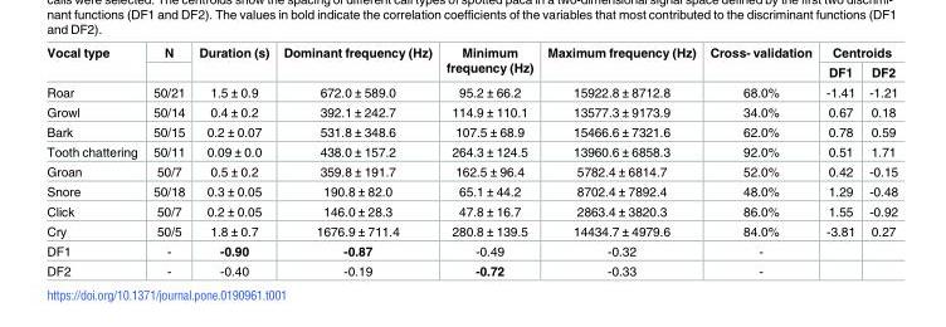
<table><thead><tr><td rowspan="2">Vocal type</td><td rowspan="2">N</td><td rowspan="2">Duration (s)</td><td rowspan="2">Dominant frequency (Hz)</td><td rowspan="2">Minimum frequency (Hz)</td><td rowspan="2">Maximum frequency (Hz)</td><td rowspan="2">Cross- validation</td><td colspan="2">Centroids</td></tr><tr><td>DF1</td><td>DF2</td></tr></thead><tbody><tr><td>Roar</td><td>50/21</td><td>1.5 ± 0.9</td><td>672.0 ± 589.0</td><td>95.2 ± 66.2</td><td>15922.8 ± 8712.8</td><td>68.0%</td><td>-1.41</td><td>-1.21</td></tr><tr><td>Growl</td><td>50/14</td><td>0.4 ± 0.2</td><td>392.1 ± 242.7</td><td>114.9 ± 110.1</td><td>13577.3 ± 9173.9</td><td>34.0%</td><td>0.67</td><td>0.18</td></tr><tr><td>Bark</td><td>50/15</td><td>0.2 ± 0.07</td><td>531.8 ± 348.6</td><td>107.5 ± 68.9</td><td>15466.6 ± 7321.6</td><td>62.0%</td><td>0.78</td><td>0.59</td></tr><tr><td>Tooth chattering</td><td>50/11</td><td>0.09 ± 0.0</td><td>438.0 ± 157.2</td><td>264.3 ± 124.5</td><td>13960.6 ± 6858.3</td><td>92.0%</td><td>0.51</td><td>1.71</td></tr><tr><td>Groan</td><td>50/7</td><td>0.5 ± 0.2</td><td>359.8 ± 191.7</td><td>162.5 ± 96.4</td><td>5782.4 ± 6814.7</td><td>52.0%</td><td>0.42</td><td>-0.15</td></tr><tr><td>Snore</td><td>50/18</td><td>0.3 ± 0.05</td><td>190.8 ± 82.0</td><td>65.1 ± 44.2</td><td>8702.4 ± 7892.4</td><td>48.0%</td><td>1.29</td><td>-0.48</td></tr><tr><td>Click</td><td>50/7</td><td>0.2 ± 0.05</td><td>146.0 ± 28.3</td><td>47.8 ± 16.7</td><td>2863.4 ± 3820.3</td><td>86.0%</td><td>1.55</td><td>-0.92</td></tr><tr><td>Cry</td><td>50/5</td><td>1.8 ± 0.7</td><td>1676.9 ± 711.4</td><td>280.8 ± 139.5</td><td>14434.7 ± 4979.6</td><td>84.0%</td><td>-3.81</td><td>0.27</td></tr><tr><td>DF1</td><td>-</td><td>-0.90</td><td>-0.87</td><td>-0.49</td><td>-0.32</td><td>-</td><td></td><td></td></tr><tr><td>DF2</td><td>-</td><td>-0.40</td><td>-0.19</td><td>-0.72</td><td>-0.33</td><td>-</td><td></td><td></td></tr></tbody></table>